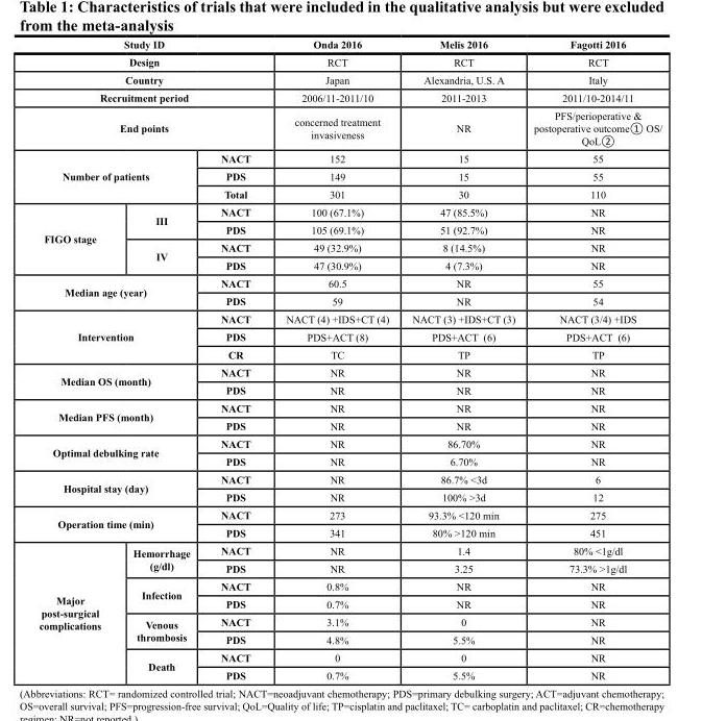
<table><thead><tr><td colspan="3">Study ID</td><td>Onda 2016</td><td>Melis 2016</td><td>Fagotti 2016</td></tr></thead><tbody><tr><td colspan="3">Design</td><td>RCT</td><td>RCT</td><td>RCT</td></tr><tr><td colspan="3">Country</td><td>Japan</td><td>Alexandria, U.S. A</td><td>Italy</td></tr><tr><td colspan="3">Recruitment period</td><td>2006/11-2011/10</td><td>2011-2013</td><td>2011/10-2014/11</td></tr><tr><td colspan="3">End points</td><td>concerned treatment invasiveness</td><td>NR</td><td>PFS/perioperative &amp; postoperative outcome① OS/ QoL②</td></tr><tr><td rowspan="3" colspan="2">Number of patients</td><td>NACT</td><td>152</td><td>15</td><td>55</td></tr><tr><td>PDS</td><td>149</td><td>15</td><td>55</td></tr><tr><td>Total</td><td>301</td><td>30</td><td>110</td></tr><tr><td rowspan="4">FIGO stage</td><td rowspan="2">III</td><td>NACT</td><td>100 (67.1%)</td><td>47 (85.5%)</td><td>NR</td></tr><tr><td>PDS</td><td>105 (69.1%)</td><td>51 (92.7%)</td><td>NR</td></tr><tr><td rowspan="2">IV</td><td>NACT</td><td>49 (32.9%)</td><td>8 (14.5%)</td><td>NR</td></tr><tr><td>PDS</td><td>47 (30.9%)</td><td>4 (7.3%)</td><td>NR</td></tr><tr><td rowspan="2" colspan="2">Median age (year)</td><td>NACT</td><td>60.5</td><td>NR</td><td>55</td></tr><tr><td>PDS</td><td>59</td><td>NR</td><td>54</td></tr><tr><td rowspan="3" colspan="2">Intervention</td><td>NACT</td><td>NACT (4) +IDS+CT (4)</td><td>NACT (3) +IDS+CT (3)</td><td>NACT (3/4) +IDS</td></tr><tr><td>PDS</td><td>PDS+ACT (8)</td><td>PDS+ACT (6)</td><td>PDS+ACT (6)</td></tr><tr><td>CR</td><td>TC</td><td>TP</td><td>TP</td></tr><tr><td rowspan="2" colspan="2">Median OS (month)</td><td>NACT</td><td>NR</td><td>NR</td><td>NR</td></tr><tr><td>PDS</td><td>NR</td><td>NR</td><td>NR</td></tr><tr><td rowspan="2" colspan="2">Median PFS (month)</td><td>NACT</td><td>NR</td><td>NR</td><td>NR</td></tr><tr><td>PDS</td><td>NR</td><td>NR</td><td>NR</td></tr><tr><td rowspan="2" colspan="2">Optimal debulking rate</td><td>NACT</td><td>NR</td><td>86.70%</td><td>NR</td></tr><tr><td>PDS</td><td>NR</td><td>6.70%</td><td>NR</td></tr><tr><td rowspan="2" colspan="2">Hospital stay (day)</td><td>NACT</td><td>NR</td><td>86.7% &lt;3d</td><td>6</td></tr><tr><td>PDS</td><td>NR</td><td>100% &gt;3d</td><td>12</td></tr><tr><td rowspan="2" colspan="2">Operation time (min)</td><td>NACT</td><td>273</td><td>93.3% &lt;120 min</td><td>275</td></tr><tr><td>PDS</td><td>341</td><td>80% &gt;120 min</td><td>451</td></tr><tr><td rowspan="8">Major post-surgical complications</td><td rowspan="2">Hemorrhage (g/dl)</td><td>NACT</td><td>NR</td><td>1.4</td><td>80% &lt;1g/dl</td></tr><tr><td>PDS</td><td>NR</td><td>3.25</td><td>73.3% &gt;1g/dl</td></tr><tr><td rowspan="2">Infection</td><td>NACT</td><td>0.8%</td><td>NR</td><td>NR</td></tr><tr><td>PDS</td><td>0.7%</td><td>NR</td><td>NR</td></tr><tr><td rowspan="2">Venous thrombosis</td><td>NACT</td><td>3.1%</td><td>0</td><td>NR</td></tr><tr><td>PDS</td><td>4.8%</td><td>5.5%</td><td>NR</td></tr><tr><td rowspan="2">Death</td><td>NACT</td><td>0</td><td>0</td><td>NR</td></tr><tr><td>PDS</td><td>0.7%</td><td>5.5%</td><td>NR</td></tr></tbody></table>